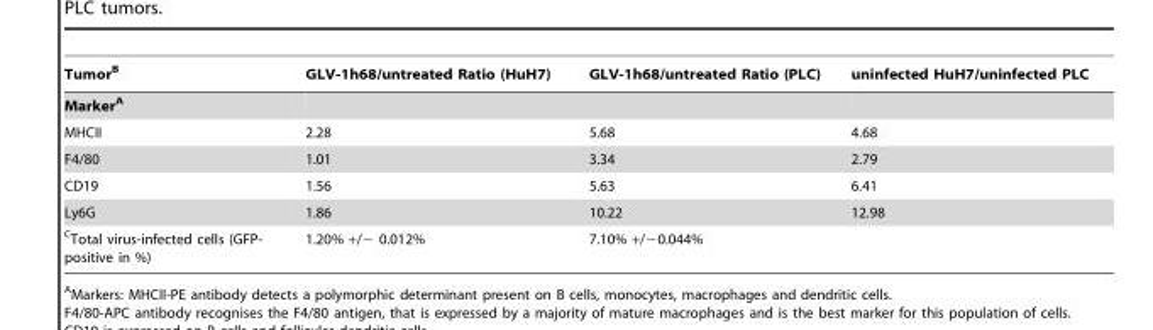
<table><thead><tr><td>Tumor<sup>B</sup></td><td>GLV-1h68/untreated Ratio (HuH7)</td><td>GLV-1h68/untreated Ratio (PLC)</td><td>uninfected HuH7/uninfected PLC</td></tr></thead><tbody><tr><td colspan="4">MarkerA</td></tr><tr><td>MHCII</td><td>2.28</td><td>5.68</td><td>4.68</td></tr><tr><td>F4/80</td><td>1.01</td><td>3.34</td><td>2.79</td></tr><tr><td>CD19</td><td>1.56</td><td>5.63</td><td>6.41</td></tr><tr><td>Ly6G</td><td>1.86</td><td>10.22</td><td>12.98</td></tr><tr><td>CTotal virus-infected cells (GFP- positive in %)</td><td>1.20% +/− 0.012%</td><td>7.10% +/−0.044%</td><td></td></tr></tbody></table>